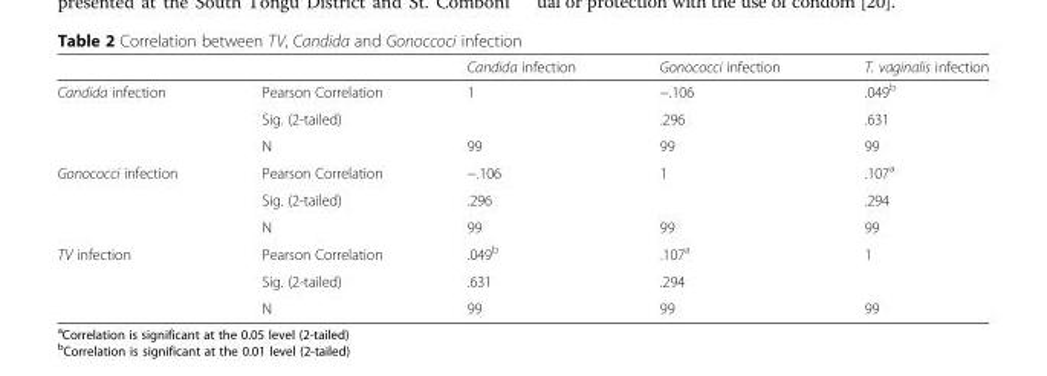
<table><thead><tr><td></td><td></td><td>Candida infection</td><td>Gonococci infection</td><td>T. vaginalis infection</td></tr></thead><tbody><tr><td rowspan="3">Candida infection</td><td>Pearson Correlation</td><td>1</td><td>−.106</td><td>.049<sup>b</sup></td></tr><tr><td>Sig. (2-tailed)</td><td></td><td>.296</td><td>.631</td></tr><tr><td>N</td><td>99</td><td>99</td><td>99</td></tr><tr><td rowspan="3">Gonococci infection</td><td>Pearson Correlation</td><td>−.106</td><td>1</td><td>.107<sup>a</sup></td></tr><tr><td>Sig. (2-tailed)</td><td>.296</td><td></td><td>.294</td></tr><tr><td>N</td><td>99</td><td>99</td><td>99</td></tr><tr><td rowspan="3">TV infection</td><td>Pearson Correlation</td><td>.049<sup>b</sup></td><td>.107<sup>a</sup></td><td>1</td></tr><tr><td>Sig. (2-tailed)</td><td>.631</td><td>.294</td><td></td></tr><tr><td>N</td><td>99</td><td>99</td><td>99</td></tr></tbody></table>